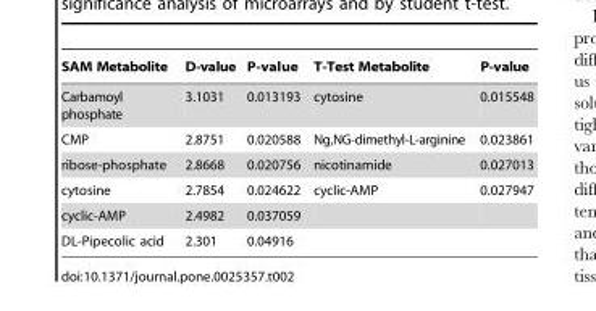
<table><thead><tr><td>SAM Metabolite</td><td>D-value</td><td>P-value</td><td>T-Test Metabolite</td><td>P-value</td></tr></thead><tbody><tr><td>Carbamoyl phosphate</td><td>3.1031</td><td>0.013193</td><td>cytosine</td><td>0.015548</td></tr><tr><td>CMP</td><td>2.8751</td><td>0.020588</td><td>Ng,NG-dimethyl-L-arginine</td><td>0.023861</td></tr><tr><td>ribose-phosphate</td><td>2.8668</td><td>0.020756</td><td>nicotinamide</td><td>0.027013</td></tr><tr><td>cytosine</td><td>2.7854</td><td>0.024622</td><td>cyclic-AMP</td><td>0.027947</td></tr><tr><td>cyclic-AMP</td><td>2.4982</td><td>0.037059</td><td></td><td></td></tr><tr><td>DL-Pipecolic acid</td><td>2.301</td><td>0.04916</td><td></td><td></td></tr></tbody></table>